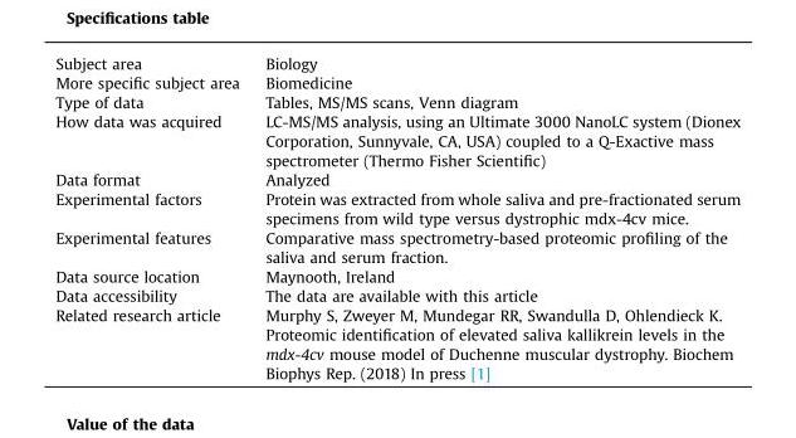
<table><tbody><tr><td>Subject area</td><td>Biology</td></tr><tr><td>More specific subject area</td><td>Biomedicine</td></tr><tr><td>Type of data</td><td>Tables, MS/MS scans, Venn diagram</td></tr><tr><td>How data was acquired</td><td>LC-MS/MS analysis, using an Ultimate 3000 NanoLC system (Dionex Corporation, Sunnyvale, CA, USA) coupled to a Q-Exactive mass spectrometer (Thermo Fisher Scientific)</td></tr><tr><td>Data format</td><td>Analyzed</td></tr><tr><td>Experimental factors</td><td>Protein was extracted from whole saliva and pre-fractionated serum specimens from wild type versus dystrophic mdx-4cv mice.</td></tr><tr><td>Experimental features</td><td>Comparative mass spectrometry-based proteomic profiling of the saliva and serum fraction.</td></tr><tr><td>Data source location</td><td>Maynooth, Ireland</td></tr><tr><td>Data accessibility</td><td>The data are available with this article</td></tr><tr><td>Related research article</td><td>Murphy S, Zweyer M, Mundegar RR, Swandulla D, Ohlendieck K. Proteomic identification of elevated saliva kallikrein levels in the mdx-4cv mouse model of Duchenne muscular dystrophy. Biochem Biophys Rep. (2018) In press [1]</td></tr></tbody></table>